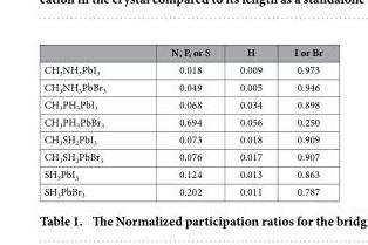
<table><thead><tr><td></td><td>N, P, or S</td><td>H</td><td>I or Br</td></tr></thead><tbody><tr><td>CH<sub>3</sub>NH<sub>3</sub>PbI<sub>3</sub></td><td>0.018</td><td>0.009</td><td>0.973</td></tr><tr><td>CH<sub>3</sub>NH<sub>3</sub>PbBr<sub>3</sub></td><td>0.049</td><td>0.005</td><td>0.946</td></tr><tr><td>CH<sub>3</sub>PH<sub>3</sub>PbI<sub>3</sub></td><td>0.068</td><td>0.034</td><td>0.898</td></tr><tr><td>CH<sub>3</sub>PH<sub>3</sub>PbBr<sub>3</sub></td><td>0.694</td><td>0.056</td><td>0.250</td></tr><tr><td>CH<sub>3</sub>SH<sub>2</sub>PbI<sub>3</sub></td><td>0.073</td><td>0.018</td><td>0.909</td></tr><tr><td>CH<sub>3</sub>SH<sub>2</sub>PbBr<sub>3</sub></td><td>0.076</td><td>0.017</td><td>0.907</td></tr><tr><td>SH<sub>3</sub>PbI<sub>3</sub></td><td>0.124</td><td>0.013</td><td>0.863</td></tr><tr><td>SH<sub>3</sub>PbBr<sub>3</sub></td><td>0.202</td><td>0.011</td><td>0.787</td></tr></tbody></table>